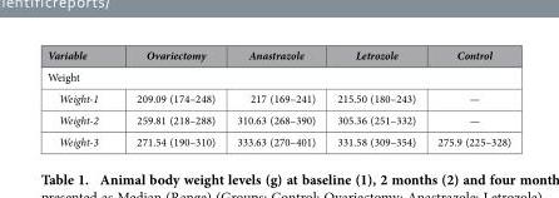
<table><thead><tr><td>Variable</td><td>Ovariectomy</td><td>Anastrazole</td><td>Letrozole</td><td>Control</td></tr></thead><tbody><tr><td colspan="5">Weight</td></tr><tr><td>Weight-1</td><td>209.09 (174–248)</td><td>217 (169–241)</td><td>215.50 (180–243)</td><td>—</td></tr><tr><td>Weight-2</td><td>259.81 (218–288)</td><td>310.63 (268–390)</td><td>305.36 (251–332)</td><td>—</td></tr><tr><td>Weight-3</td><td>271.54 (190–310)</td><td>333.63 (270–401)</td><td>331.58 (309–354)</td><td>275.9 (225–328)</td></tr></tbody></table>